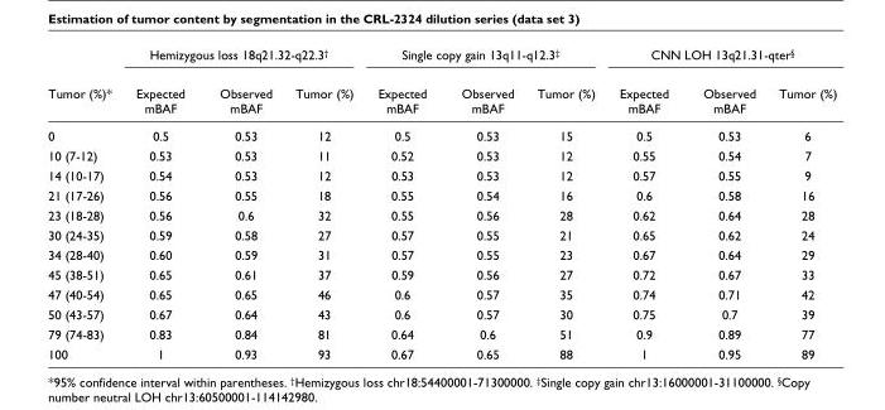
<table><thead><tr><td rowspan="2">Tumor (%)*</td><td colspan="3">Hemizygous loss 18q21.32-q22.3<sup>†</sup></td><td colspan="3">Single copy gain 13q11-q12.3<sup>‡</sup></td><td colspan="3">CNN LOH 13q21.31-qter<sup>§</sup></td></tr><tr><td>Expected mBAF</td><td>Observed mBAF</td><td>Tumor (%)</td><td>Expected mBAF</td><td>Observed mBAF</td><td>Tumor (%)</td><td>Expected mBAF</td><td>Observed mBAF</td><td>Tumor (%)</td></tr></thead><tbody><tr><td>0</td><td>0.5</td><td>0.53</td><td>12</td><td>0.5</td><td>0.53</td><td>15</td><td>0.5</td><td>0.53</td><td>6</td></tr><tr><td>10 (7-12)</td><td>0.53</td><td>0.53</td><td>11</td><td>0.52</td><td>0.53</td><td>12</td><td>0.55</td><td>0.54</td><td>7</td></tr><tr><td>14 (10-17)</td><td>0.54</td><td>0.53</td><td>12</td><td>0.53</td><td>0.53</td><td>12</td><td>0.57</td><td>0.55</td><td>9</td></tr><tr><td>21 (17-26)</td><td>0.56</td><td>0.55</td><td>18</td><td>0.55</td><td>0.54</td><td>16</td><td>0.6</td><td>0.58</td><td>16</td></tr><tr><td>23 (18-28)</td><td>0.56</td><td>0.6</td><td>32</td><td>0.55</td><td>0.56</td><td>28</td><td>0.62</td><td>0.64</td><td>28</td></tr><tr><td>30 (24-35)</td><td>0.59</td><td>0.58</td><td>27</td><td>0.57</td><td>0.55</td><td>21</td><td>0.65</td><td>0.62</td><td>24</td></tr><tr><td>34 (28-40)</td><td>0.60</td><td>0.59</td><td>31</td><td>0.57</td><td>0.55</td><td>23</td><td>0.67</td><td>0.64</td><td>29</td></tr><tr><td>45 (38-51)</td><td>0.65</td><td>0.61</td><td>37</td><td>0.59</td><td>0.56</td><td>27</td><td>0.72</td><td>0.67</td><td>33</td></tr><tr><td>47 (40-54)</td><td>0.65</td><td>0.65</td><td>46</td><td>0.6</td><td>0.57</td><td>35</td><td>0.74</td><td>0.71</td><td>42</td></tr><tr><td>50 (43-57)</td><td>0.67</td><td>0.64</td><td>43</td><td>0.6</td><td>0.57</td><td>30</td><td>0.75</td><td>0.7</td><td>39</td></tr><tr><td>79 (74-83)</td><td>0.83</td><td>0.84</td><td>81</td><td>0.64</td><td>0.6</td><td>51</td><td>0.9</td><td>0.89</td><td>77</td></tr><tr><td>100</td><td>1</td><td>0.93</td><td>93</td><td>0.67</td><td>0.65</td><td>88</td><td>1</td><td>0.95</td><td>89</td></tr></tbody></table>